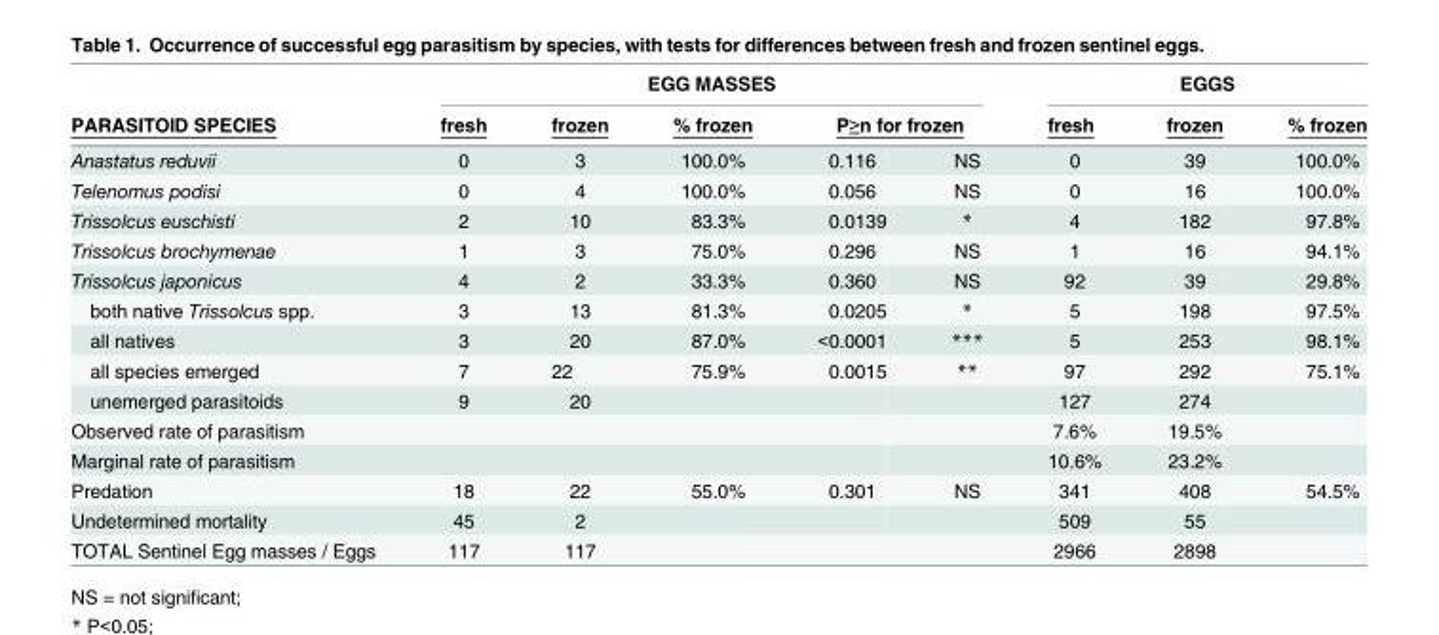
<table><thead><tr><td rowspan="3">PARASITOID SPECIES Anastatus reduvii</td><td colspan="5">EGG MASSES</td><td colspan="3">EGGS</td></tr><tr><td rowspan="2">fresh 0</td><td rowspan="2">frozen 3</td><td rowspan="2">% frozen 100.0%</td><td colspan="2">P≥n for frozen</td><td rowspan="2">fresh 0</td><td rowspan="2">frozen 39</td><td rowspan="2">% frozen 100.0%</td></tr><tr><td>0.116</td><td>NS</td></tr></thead><tbody><tr><td>Telenomus podisi</td><td>0</td><td>4</td><td>100.0%</td><td>0.056</td><td>NS</td><td>0</td><td>16</td><td>100.0%</td></tr><tr><td>Trissolcus euschisti</td><td>2</td><td>10</td><td>83.3%</td><td>0.0139</td><td>*</td><td>4</td><td>182</td><td>97.8%</td></tr><tr><td>Trissolcus brochymenae</td><td>1</td><td>3</td><td>75.0%</td><td>0.296</td><td>NS</td><td>1</td><td>16</td><td>94.1%</td></tr><tr><td>Trissolcus japonicus</td><td>4</td><td>2</td><td>33.3%</td><td>0.360</td><td>NS</td><td>92</td><td>39</td><td>29.8%</td></tr><tr><td>both native Trissolcus spp.</td><td>3</td><td>13</td><td>81.3%</td><td>0.0205</td><td>*</td><td>5</td><td>198</td><td>97.5%</td></tr><tr><td>all natives</td><td>3</td><td>20</td><td>87.0%</td><td>&lt;0.0001</td><td>***</td><td>5</td><td>253</td><td>98.1%</td></tr><tr><td>all species emerged</td><td>7</td><td>22</td><td>75.9%</td><td>0.0015</td><td>**</td><td>97</td><td>292</td><td>75.1%</td></tr><tr><td>unemerged parasitoids</td><td>9</td><td>20</td><td></td><td></td><td></td><td>127</td><td>274</td><td></td></tr><tr><td>Observed rate of parasitism</td><td></td><td></td><td></td><td></td><td></td><td>7.6%</td><td>19.5%</td><td></td></tr><tr><td>Marginal rate of parasitism</td><td></td><td></td><td></td><td></td><td></td><td>10.6%</td><td>23.2%</td><td></td></tr><tr><td>Predation</td><td>18</td><td>22</td><td>55.0%</td><td>0.301</td><td>NS</td><td>341</td><td>408</td><td>54.5%</td></tr><tr><td>Undetermined mortality</td><td>45</td><td>2</td><td></td><td></td><td></td><td>509</td><td>55</td><td></td></tr><tr><td>TOTAL Sentinel Egg masses / Eggs</td><td>117</td><td>117</td><td></td><td></td><td></td><td>2966</td><td>2898</td><td></td></tr></tbody></table>